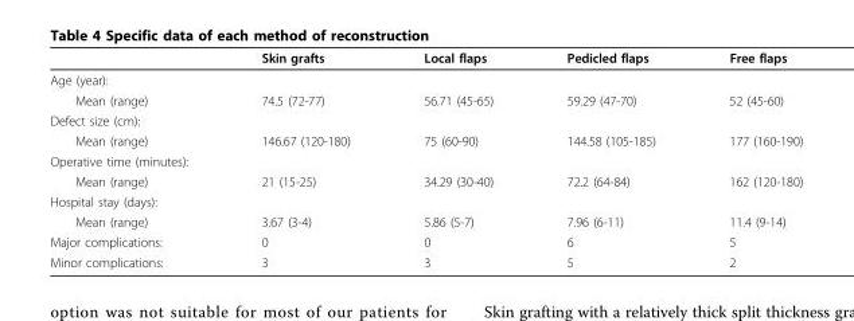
<table><thead><tr><td></td><td>Skin grafts</td><td>Local flaps</td><td>Pedicled flaps</td><td>Free flaps</td></tr></thead><tbody><tr><td colspan="5">Age (year):</td></tr><tr><td>Mean (range)</td><td>74.5 (72-77)</td><td>56.71 (45-65)</td><td>59.29 (47-70)</td><td>52 (45-60)</td></tr><tr><td colspan="5">Defect size (cm):</td></tr><tr><td>Mean (range)</td><td>146.67 (120-180)</td><td>75 (60-90)</td><td>144.58 (105-185)</td><td>177 (160-190)</td></tr><tr><td colspan="5">Operative time (minutes):</td></tr><tr><td>Mean (range)</td><td>21 (15-25)</td><td>34.29 (30-40)</td><td>72.2 (64-84)</td><td>162 (120-180)</td></tr><tr><td colspan="5">Hospital stay (days):</td></tr><tr><td>Mean (range)</td><td>3.67 (3-4)</td><td>5.86 (5-7)</td><td>7.96 (6-11)</td><td>11.4 (9-14)</td></tr><tr><td>Major complications:</td><td>0</td><td>0</td><td>6</td><td>5</td></tr><tr><td>Minor complications:</td><td>3</td><td>3</td><td>5</td><td>2</td></tr></tbody></table>